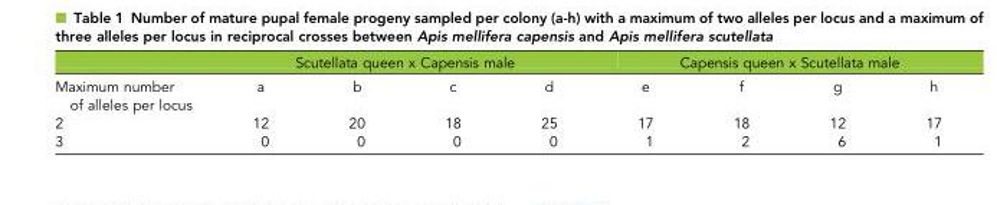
<table><thead><tr><td rowspan="2">Maximum number of alleles per locus</td><td colspan="4">Scutellata queen x Capensis male</td><td colspan="4">Capensis queen x Scutellata male</td></tr><tr><td>a</td><td>b</td><td>c</td><td>d</td><td>e</td><td>f</td><td>g</td><td>h</td></tr></thead><tbody><tr><td>2</td><td>12</td><td>20</td><td>18</td><td>25</td><td>17</td><td>18</td><td>12</td><td>17</td></tr><tr><td>3</td><td>0</td><td>0</td><td>0</td><td>0</td><td>1</td><td>2</td><td>6</td><td>1</td></tr></tbody></table>